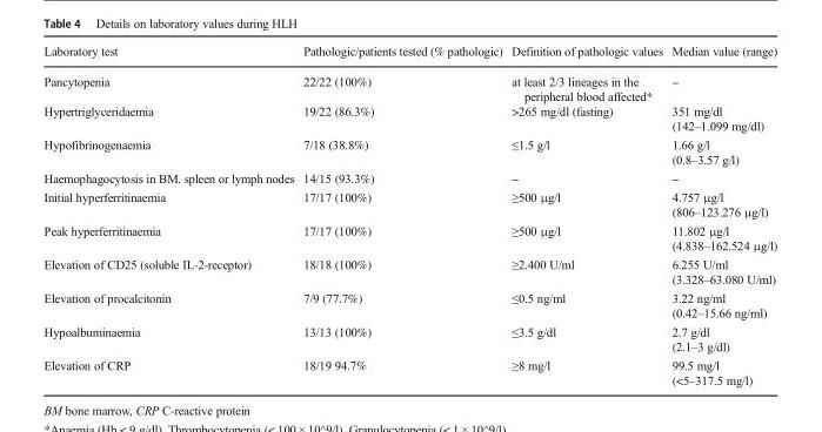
<table><thead><tr><td>Laboratory test</td><td>Pathologic/patients tested (% pathologic)</td><td>Definition of pathologic values</td><td>Median value (range)</td></tr></thead><tbody><tr><td>Pancytopenia</td><td>22/22 (100%)</td><td>at least 2/3 lineages in the peripheral blood affected*</td><td>–</td></tr><tr><td>Hypertriglyceridaemia</td><td>19/22 (86.3%)</td><td>&gt;265 mg/dl (fasting)</td><td>351 mg/dl (142–1.099 mg/dl)</td></tr><tr><td>Hypofibrinogenaemia</td><td>7/18 (38.8%)</td><td>≤1.5 g/l</td><td>1.66 g/l (0.8–3.57 g/l)</td></tr><tr><td>Haemophagocytosis in BM. spleen or lymph nodes</td><td>14/15 (93.3%)</td><td>–</td><td>–</td></tr><tr><td>Initial hyperferritinaemia</td><td>17/17 (100%)</td><td>≥500 μg/l</td><td>4.757 μg/l (806–123.276 μg/l)</td></tr><tr><td>Peak hyperferritinaemia</td><td>17/17 (100%)</td><td>≥500 μg/l</td><td>11.802 μg/l (4.838–162.524 μg/l)</td></tr><tr><td>Elevation of CD25 (soluble IL-2-receptor)</td><td>18/18 (100%)</td><td>≥2.400 U/ml</td><td>6.255 U/ml (3.328–63.080 U/ml)</td></tr><tr><td>Elevation of procalcitonin</td><td>7/9 (77.7%)</td><td>≤0.5 ng/ml</td><td>3.22 ng/ml (0.42–15.66 ng/ml)</td></tr><tr><td>Hypoalbuminaemia</td><td>13/13 (100%)</td><td>≤3.5 g/dl</td><td>2.7 g/dl (2.1–3 g/dl)</td></tr><tr><td>Elevation of CRP</td><td>18/19 94.7%</td><td>≥8 mg/l</td><td>99.5 mg/l (&lt;5–317.5 mg/l)</td></tr></tbody></table>